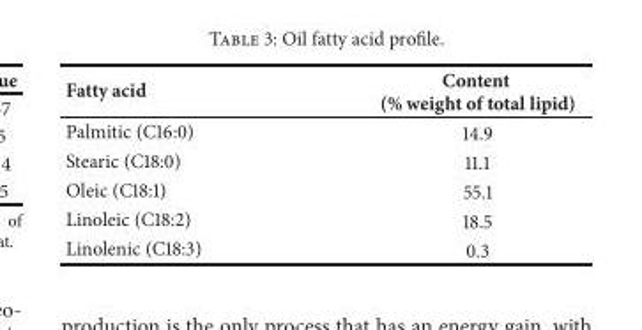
<table><thead><tr><td>Fatty acid</td><td>Content (% weight of total lipid)</td></tr></thead><tbody><tr><td>Palmitic (C16:0)</td><td>14.9</td></tr><tr><td>Stearic (C18:0)</td><td>11.1</td></tr><tr><td>Oleic (C18:1)</td><td>55.1</td></tr><tr><td>Linoleic (C18:2)</td><td>18.5</td></tr><tr><td>Linolenic (C18:3)</td><td>0.3</td></tr></tbody></table>